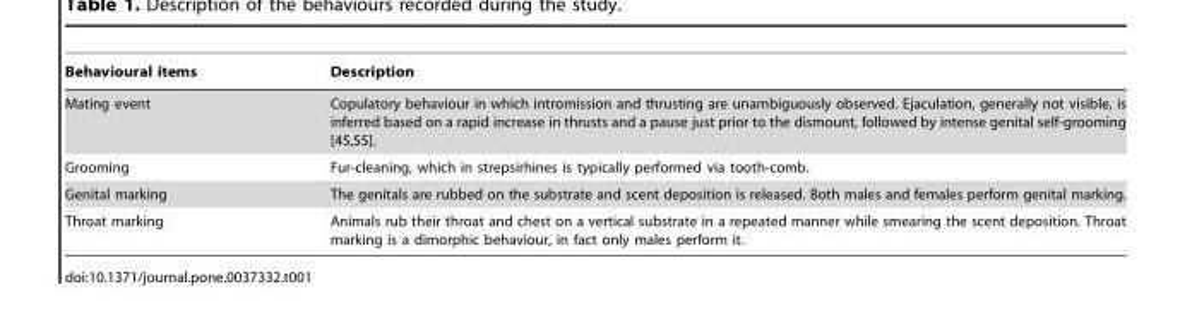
<table><thead><tr><td>Behavioural items</td><td>Description</td></tr></thead><tbody><tr><td>Mating event</td><td>Copulatory behaviour in which intromission and thrusting are unambiguously observed. Ejaculation, generally not visible, is inferred based on a rapid increase in thrusts and a pause just prior to the dismount, followed by intense genital self-grooming [45,55].</td></tr><tr><td>Grooming</td><td>Fur-cleaning, which in strepsirhines is typically performed via tooth-comb.</td></tr><tr><td>Genital marking</td><td>The genitals are rubbed on the substrate and scent deposition is released. Both males and females perform genital marking.</td></tr><tr><td>Throat marking</td><td>Animals rub their throat and chest on a vertical substrate in a repeated manner while smearing the scent deposition. Throat marking is a dimorphic behaviour, in fact only males perform it.</td></tr></tbody></table>